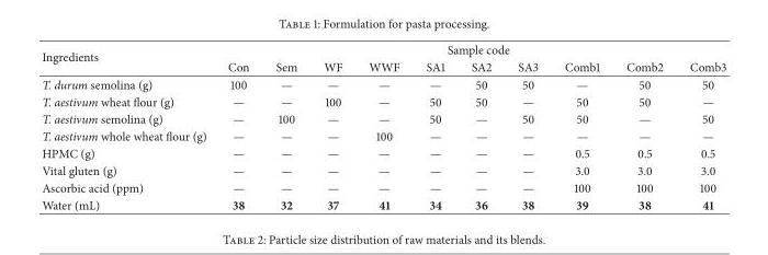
<table><thead><tr><td rowspan="2">Ingredients</td><td colspan="10">Sample code</td></tr><tr><td>Con</td><td>Sem</td><td>WF</td><td>WWF</td><td>SA1</td><td>SA2</td><td>SA3</td><td>Comb1</td><td>Comb2</td><td>Comb3</td></tr></thead><tbody><tr><td>T. durum semolina (g)</td><td>100</td><td>—</td><td>—</td><td>—</td><td>—</td><td>50</td><td>50</td><td>—</td><td>50</td><td>50</td></tr><tr><td>T. aestivum wheat flour (g)</td><td>—</td><td>—</td><td>100</td><td>—</td><td>50</td><td>50</td><td>—</td><td>50</td><td>50</td><td>—</td></tr><tr><td>T. aestivum semolina (g)</td><td>—</td><td>100</td><td>—</td><td>—</td><td>50</td><td>—</td><td>50</td><td>50</td><td>—</td><td>50</td></tr><tr><td>T. aestivum whole wheat flour (g)</td><td>—</td><td>—</td><td>—</td><td>100</td><td>—</td><td>—</td><td>—</td><td>—</td><td>—</td><td>—</td></tr><tr><td>HPMC (g)</td><td>—</td><td>—</td><td>—</td><td>—</td><td>—</td><td>—</td><td>—</td><td>0.5</td><td>0.5</td><td>0.5</td></tr><tr><td>Vital gluten (g)</td><td>—</td><td>—</td><td>—</td><td>—</td><td>—</td><td>—</td><td>—</td><td>3.0</td><td>3.0</td><td>3.0</td></tr><tr><td>Ascorbic acid (ppm)</td><td>—</td><td>—</td><td>—</td><td>—</td><td>—</td><td>—</td><td>—</td><td>100</td><td>100</td><td>100</td></tr><tr><td>Water (mL)</td><td>38</td><td>32</td><td>37</td><td>41</td><td>34</td><td>36</td><td>38</td><td>39</td><td>38</td><td>41</td></tr></tbody></table>